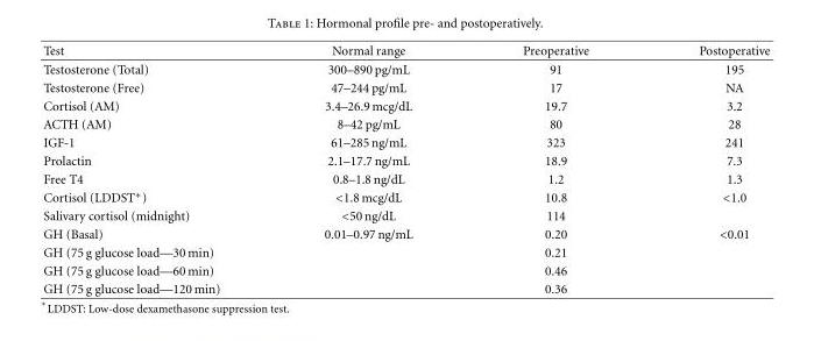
<table><thead><tr><td>Test</td><td>Normal range</td><td>Preoperative</td><td>Postoperative</td></tr></thead><tbody><tr><td>Testosterone (Total)</td><td>300–890 pg/mL</td><td>91</td><td>195</td></tr><tr><td>Testosterone (Free)</td><td>47–244 pg/mL</td><td>17</td><td>NA</td></tr><tr><td>Cortisol (AM)</td><td>3.4–26.9 mcg/dL</td><td>19.7</td><td>3.2</td></tr><tr><td>ACTH (AM)</td><td>8–42 pg/mL</td><td>80</td><td>28</td></tr><tr><td>IGF-1</td><td>61–285 ng/mL</td><td>323</td><td>241</td></tr><tr><td>Prolactin</td><td>2.1–17.7 ng/mL</td><td>18.9</td><td>7.3</td></tr><tr><td>Free T4</td><td>0.8–1.8 ng/dL</td><td>1.2</td><td>1.3</td></tr><tr><td>Cortisol (LDDST∗)</td><td>&lt;1.8 mcg/dL</td><td>10.8</td><td>&lt;1.0</td></tr><tr><td>Salivary cortisol (midnight)</td><td>&lt;50 ng/dL</td><td>114</td><td></td></tr><tr><td>GH (Basal)</td><td>0.01–0.97 ng/mL</td><td>0.20</td><td>&lt;0.01</td></tr><tr><td>GH (75 g glucose load—30 min)</td><td></td><td>0.21</td><td></td></tr><tr><td>GH (75 g glucose load—60 min)</td><td></td><td>0.46</td><td></td></tr><tr><td>GH (75 g glucose load—120 min)</td><td></td><td>0.36</td><td></td></tr></tbody></table>